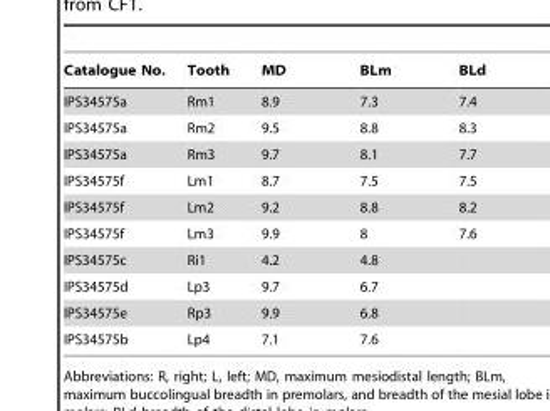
<table><thead><tr><td>Catalogue No.</td><td>Tooth</td><td>MD</td><td>BLm</td><td>BLd</td></tr></thead><tbody><tr><td>IPS34575a</td><td>Rm1</td><td>8.9</td><td>7.3</td><td>7.4</td></tr><tr><td>IPS34575a</td><td>Rm2</td><td>9.5</td><td>8.8</td><td>8.3</td></tr><tr><td>IPS34575a</td><td>Rm3</td><td>9.7</td><td>8.1</td><td>7.7</td></tr><tr><td>IPS34575f</td><td>Lm1</td><td>8.7</td><td>7.5</td><td>7.5</td></tr><tr><td>IPS34575f</td><td>Lm2</td><td>9.2</td><td>8.8</td><td>8.2</td></tr><tr><td>IPS34575f</td><td>Lm3</td><td>9.9</td><td>8</td><td>7.6</td></tr><tr><td>IPS34575c</td><td>Ri1</td><td>4.2</td><td>4.8</td><td></td></tr><tr><td>IPS34575d</td><td>Lp3</td><td>9.7</td><td>6.7</td><td></td></tr><tr><td>IPS34575e</td><td>Rp3</td><td>9.9</td><td>6.8</td><td></td></tr><tr><td>IPS34575b</td><td>Lp4</td><td>7.1</td><td>7.6</td><td></td></tr></tbody></table>